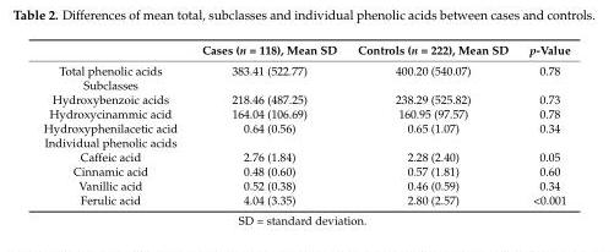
<table><thead><tr><td></td><td>Cases (n = 118), Mean SD</td><td>Controls (n = 222), Mean SD</td><td>p-Value</td></tr></thead><tbody><tr><td>Total phenolic acids</td><td>383.41 (522.77)</td><td>400.20 (540.07)</td><td>0.78</td></tr><tr><td colspan="4">Subclasses</td></tr><tr><td>Hydroxybenzoic acids</td><td>218.46 (487.25)</td><td>238.29 (525.82)</td><td>0.73</td></tr><tr><td>Hydroxycinammic acid</td><td>164.04 (106.69)</td><td>160.95 (97.57)</td><td>0.78</td></tr><tr><td>Hydroxyphenilacetic acid</td><td>0.64 (0.56)</td><td>0.65 (1.07)</td><td>0.34</td></tr><tr><td colspan="4">Individual phenolic acids</td></tr><tr><td>Caffeic acid</td><td>2.76 (1.84)</td><td>2.28 (2.40)</td><td>0.05</td></tr><tr><td>Cinnamic acid</td><td>0.48 (0.60)</td><td>0.57 (1.81)</td><td>0.60</td></tr><tr><td>Vanillic acid</td><td>0.52 (0.38)</td><td>0.46 (0.59)</td><td>0.34</td></tr><tr><td>Ferulic acid</td><td>4.04 (3.35)</td><td>2.80 (2.57)</td><td>&lt;0.001</td></tr></tbody></table>